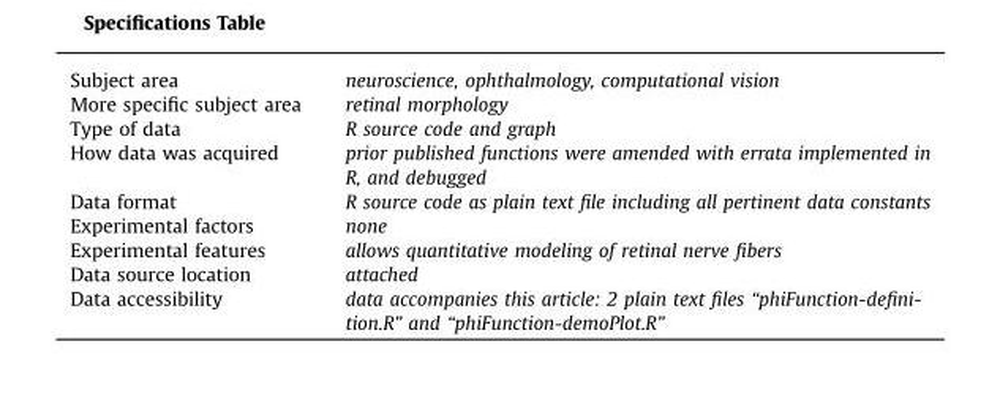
<table><tbody><tr><td>Subject area</td><td>neuroscience, ophthalmology, computational vision</td></tr><tr><td>More specific subject area</td><td>retinal morphology</td></tr><tr><td>Type of data</td><td>R source code and graph</td></tr><tr><td>How data was acquired</td><td>prior published functions were amended with errata implemented in R, and debugged</td></tr><tr><td>Data format</td><td>R source code as plain text file including all pertinent data constants</td></tr><tr><td>Experimental factors</td><td>none</td></tr><tr><td>Experimental features</td><td>allows quantitative modeling of retinal nerve fibers</td></tr><tr><td>Data source location</td><td>attached</td></tr><tr><td>Data accessibility</td><td>data accompanies this article: 2 plain text files “phiFunction-defini- tion.R” and “phiFunction-demoPlot.R”</td></tr></tbody></table>